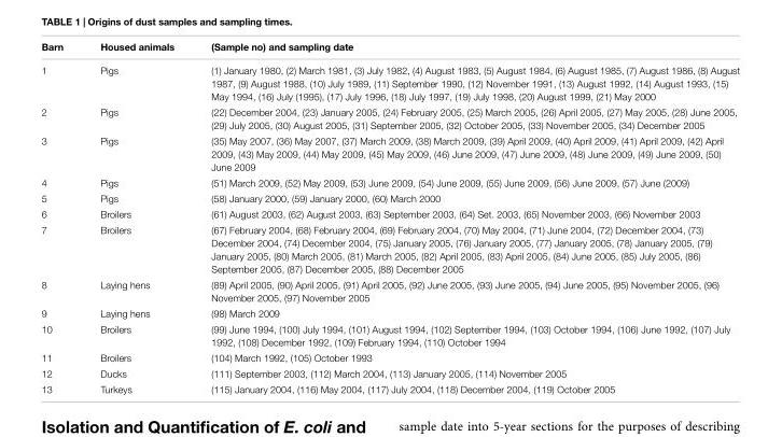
<table><thead><tr><td>Barn</td><td>Housed animals</td><td>(Sample no) and sampling date</td></tr></thead><tbody><tr><td>1</td><td>Pigs</td><td>(1) January 1980, (2) March 1981, (3) July 1982, (4) August 1983, (5) August 1984, (6) August 1985, (7) August 1986, (8) August 1987, (9) August 1988, (10) July 1989, (11) September 1990, (12) November 1991, (13) August 1992, (14) August 1993, (15) May 1994, (16) July (1995), (17) July 1996, (18) July 1997, (19) July 1998, (20) August 1999, (21) May 2000</td></tr><tr><td>2</td><td>Pigs</td><td>(22) December 2004, (23) January 2005, (24) February 2005, (25) March 2005, (26) April 2005, (27) May 2005, (28) June 2005, (29) July 2005, (30) August 2005, (31) September 2005, (32) October 2005, (33) November 2005, (34) December 2005</td></tr><tr><td>3</td><td>Pigs</td><td>(35) May 2007, (36) May 2007, (37) March 2009, (38) March 2009, (39) April 2009, (40) April 2009, (41) April 2009, (42) April 2009, (43) May 2009, (44) May 2009, (45) May 2009, (46) June 2009, (47) June 2009, (48) June 2009, (49) June 2009, (50) June 2009</td></tr><tr><td>4</td><td>Pigs</td><td>(51) March 2009, (52) May 2009, (53) June 2009, (54) June 2009, (55) June 2009, (56) June 2009, (57) June (2009)</td></tr><tr><td>5</td><td>Pigs</td><td>(58) January 2000, (59) January 2000, (60) March 2000</td></tr><tr><td>6</td><td>Broilers</td><td>(61) August 2003, (62) August 2003, (63) September 2003, (64) Set. 2003, (65) November 2003, (66) November 2003</td></tr><tr><td>7</td><td>Broilers</td><td>(67) February 2004, (68) February 2004, (69) February 2004, (70) May 2004, (71) June 2004, (72) December 2004, (73) December 2004, (74) December 2004, (75) January 2005, (76) January 2005, (77) January 2005, (78) January 2005, (79) January 2005, (80) March 2005, (81) March 2005, (82) April 2005, (83) April 2005, (84) June 2005, (85) July 2005, (86) September 2005, (87) December 2005, (88) December 2005</td></tr><tr><td>8</td><td>Laying hens</td><td>(89) April 2005, (90) April 2005, (91) April 2005, (92) June 2005, (93) June 2005, (94) June 2005, (95) November 2005, (96) November 2005, (97) November 2005</td></tr><tr><td>9</td><td>Laying hens</td><td>(98) March 2009</td></tr><tr><td>10</td><td>Broilers</td><td>(99) June 1994, (100) July 1994, (101) August 1994, (102) September 1994, (103) October 1994, (106) June 1992, (107) July 1992, (108) December 1992, (109) February 1994, (110) October 1994</td></tr><tr><td>11</td><td>Broilers</td><td>(104) March 1992, (105) October 1993</td></tr><tr><td>12</td><td>Ducks</td><td>(111) September 2003, (112) March 2004, (113) January 2005, (114) November 2005</td></tr><tr><td>13</td><td>Turkeys</td><td>(115) January 2004, (116) May 2004, (117) July 2004, (118) December 2004, (119) October 2005</td></tr></tbody></table>